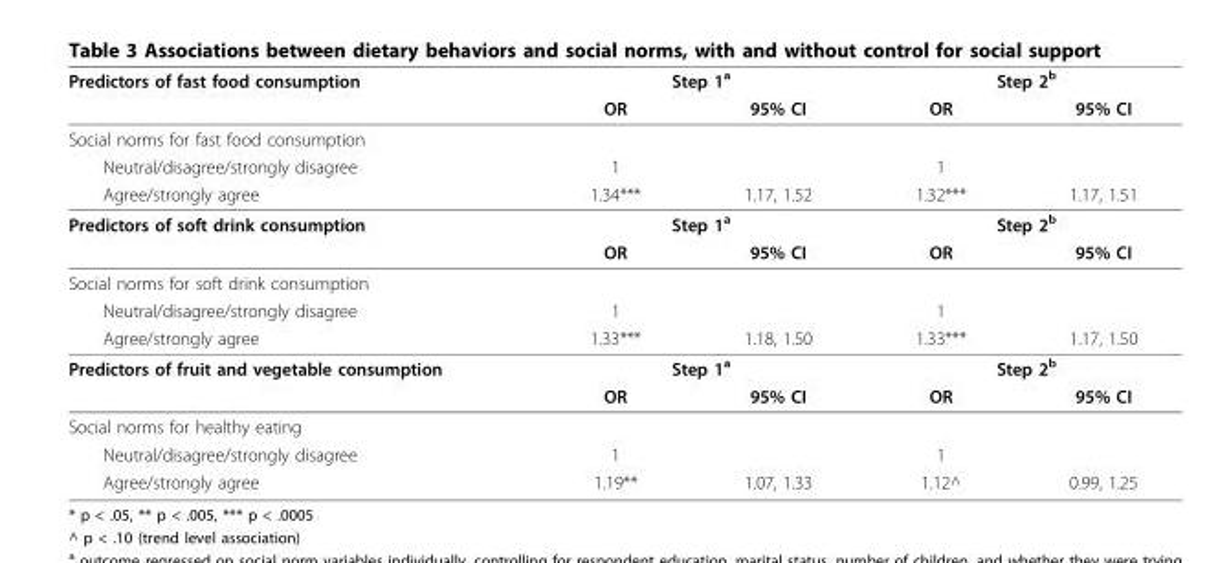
<table><thead><tr><td rowspan="2">Predictors of fast food consumption</td><td colspan="2">Step 1a</td><td colspan="2">Step 2b</td></tr><tr><td>OR</td><td>95% CI</td><td>OR</td><td>95% CI</td></tr></thead><tbody><tr><td colspan="5">Social norms for fast food consumption</td></tr><tr><td>Neutral/disagree/strongly disagree</td><td>1</td><td></td><td>1</td><td></td></tr><tr><td>Agree/strongly agree</td><td>1.34***</td><td>1.17, 1.52</td><td>1.32***</td><td>1.17, 1.51</td></tr><tr><td rowspan="2">Predictors of soft drink consumption</td><td colspan="2">Step 1a</td><td colspan="2">Step 2b</td></tr><tr><td>OR</td><td>95% CI</td><td>OR</td><td>95% CI</td></tr><tr><td colspan="5">Social norms for soft drink consumption</td></tr><tr><td>Neutral/disagree/strongly disagree</td><td>1</td><td></td><td>1</td><td></td></tr><tr><td>Agree/strongly agree</td><td>1.33***</td><td>1.18, 1.50</td><td>1.33***</td><td>1.17, 1.50</td></tr><tr><td rowspan="2">Predictors of fruit and vegetable consumption</td><td colspan="2">Step 1a</td><td colspan="2">Step 2b</td></tr><tr><td>OR</td><td>95% CI</td><td>OR</td><td>95% CI</td></tr><tr><td colspan="5">Social norms for healthy eating</td></tr><tr><td>Neutral/disagree/strongly disagree</td><td>1</td><td></td><td>1</td><td></td></tr><tr><td>Agree/strongly agree</td><td>1.19**</td><td>1.07, 1.33</td><td>1.12^</td><td>0.99, 1.25</td></tr></tbody></table>